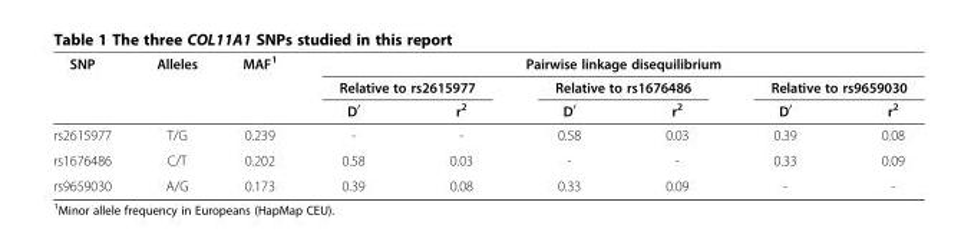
<table><thead><tr><td rowspan="3">SNP</td><td rowspan="3">Alleles</td><td rowspan="3">MAF<sup>1</sup></td><td colspan="6">Pairwise linkage disequilibrium</td></tr><tr><td colspan="2">Relative to rs2615977</td><td colspan="2">Relative to rs1676486</td><td colspan="2">Relative to rs9659030</td></tr><tr><td>D<sup>′</sup></td><td>r<sup>2</sup></td><td>D<sup>′</sup></td><td>r<sup>2</sup></td><td>D<sup>′</sup></td><td>r<sup>2</sup></td></tr></thead><tbody><tr><td>rs2615977</td><td>T/G</td><td>0.239</td><td>-</td><td>-</td><td>0.58</td><td>0.03</td><td>0.39</td><td>0.08</td></tr><tr><td>rs1676486</td><td>C/T</td><td>0.202</td><td>0.58</td><td>0.03</td><td>-</td><td>-</td><td>0.33</td><td>0.09</td></tr><tr><td>rs9659030</td><td>A/G</td><td>0.173</td><td>0.39</td><td>0.08</td><td>0.33</td><td>0.09</td><td>-</td><td>-</td></tr></tbody></table>